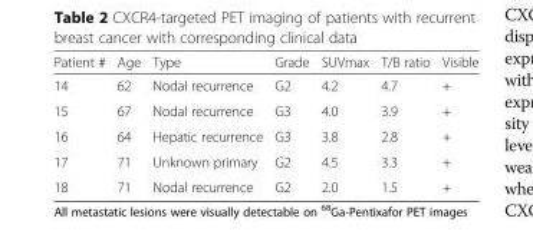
<table><thead><tr><td>Patient #</td><td>Age</td><td>Type</td><td>Grade</td><td>SUVmax</td><td>T/B ratio</td><td>Visible</td></tr></thead><tbody><tr><td>14</td><td>62</td><td>Nodal recurrence</td><td>G2</td><td>4.2</td><td>4.7</td><td>+</td></tr><tr><td>15</td><td>67</td><td>Nodal recurrence</td><td>G3</td><td>4.0</td><td>3.9</td><td>+</td></tr><tr><td>16</td><td>64</td><td>Hepatic recurrence</td><td>G3</td><td>3.8</td><td>2.8</td><td>+</td></tr><tr><td>17</td><td>71</td><td>Unknown primary</td><td>G2</td><td>4.5</td><td>3.3</td><td>+</td></tr><tr><td>18</td><td>71</td><td>Nodal recurrence</td><td>G2</td><td>2.0</td><td>1.5</td><td>+</td></tr></tbody></table>